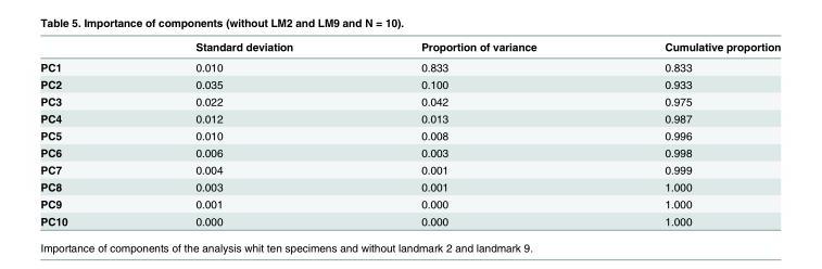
<table><thead><tr><td></td><td>Standard deviation</td><td>Proportion of variance</td><td>Cumulative proportion</td></tr></thead><tbody><tr><td>PC1</td><td>0.010</td><td>0.833</td><td>0.833</td></tr><tr><td>PC2</td><td>0.035</td><td>0.100</td><td>0.933</td></tr><tr><td>PC3</td><td>0.022</td><td>0.042</td><td>0.975</td></tr><tr><td>PC4</td><td>0.012</td><td>0.013</td><td>0.987</td></tr><tr><td>PC5</td><td>0.010</td><td>0.008</td><td>0.996</td></tr><tr><td>PC6</td><td>0.006</td><td>0.003</td><td>0.998</td></tr><tr><td>PC7</td><td>0.004</td><td>0.001</td><td>0.999</td></tr><tr><td>PC8</td><td>0.003</td><td>0.001</td><td>1.000</td></tr><tr><td>PC9</td><td>0.001</td><td>0.000</td><td>1.000</td></tr><tr><td>PC10</td><td>0.000</td><td>0.000</td><td>1.000</td></tr></tbody></table>